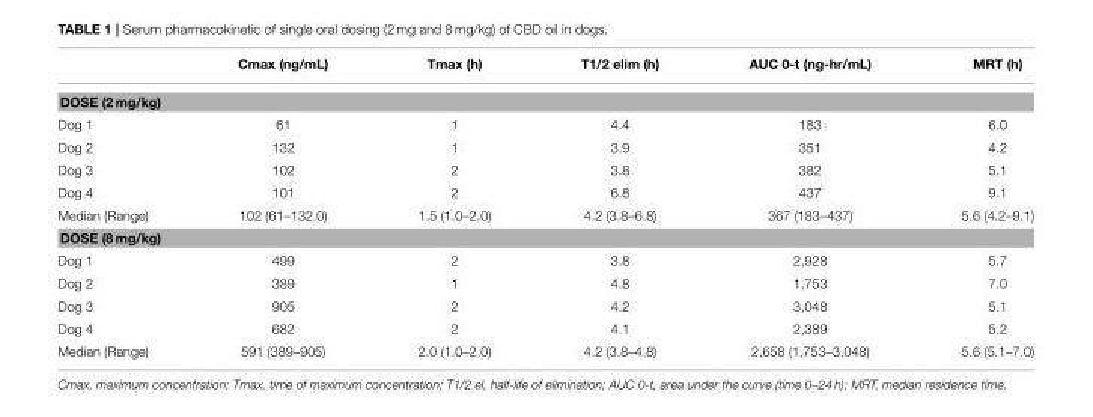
<table><thead><tr><td></td><td>Cmax (ng/mL)</td><td>Tmax (h)</td><td>T1/2 elim (h)</td><td>AUC 0-t (ng-hr/mL)</td><td>MRT (h)</td></tr></thead><tbody><tr><td colspan="6">DOSE (2 mg/kg)</td></tr><tr><td>Dog 1</td><td>61</td><td>1</td><td>4.4</td><td>183</td><td>6.0</td></tr><tr><td>Dog 2</td><td>132</td><td>1</td><td>3.9</td><td>351</td><td>4.2</td></tr><tr><td>Dog 3</td><td>102</td><td>2</td><td>3.8</td><td>382</td><td>5.1</td></tr><tr><td>Dog 4</td><td>101</td><td>2</td><td>6.8</td><td>437</td><td>9.1</td></tr><tr><td>Median (Range)</td><td>102 (61–132.0)</td><td>1.5 (1.0–2.0)</td><td>4.2 (3.8–6.8)</td><td>367 (183–437)</td><td>5.6 (4.2–9.1)</td></tr><tr><td colspan="6">DOSE (8 mg/kg)</td></tr><tr><td>Dog 1</td><td>499</td><td>2</td><td>3.8</td><td>2,928</td><td>5.7</td></tr><tr><td>Dog 2</td><td>389</td><td>1</td><td>4.8</td><td>1,753</td><td>7.0</td></tr><tr><td>Dog 3</td><td>905</td><td>2</td><td>4.2</td><td>3,048</td><td>5.1</td></tr><tr><td>Dog 4</td><td>682</td><td>2</td><td>4.1</td><td>2,389</td><td>5.2</td></tr><tr><td>Median (Range)</td><td>591 (389–905)</td><td>2.0 (1.0–2.0)</td><td>4.2 (3.8–4.8)</td><td>2,658 (1,753–3,048)</td><td>5.6 (5.1–7.0)</td></tr></tbody></table>